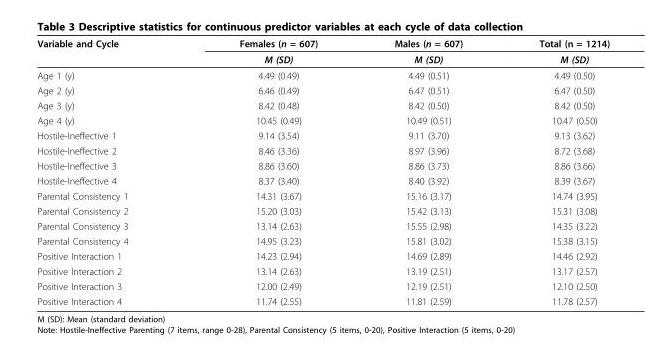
<table><thead><tr><td rowspan="2">Variable and Cycle</td><td rowspan="2">Females (n = 607) M (SD)</td><td rowspan="2">Males (n = 607) M (SD)</td><td rowspan="2">Total (n = 1214) M (SD)</td></tr><tr></tr></thead><tbody><tr><td>Age 1 (y)</td><td>4.49 (0.49)</td><td>4.49 (0.51)</td><td>4.49 (0.50)</td></tr><tr><td>Age 2 (y)</td><td>6.46 (0.49)</td><td>6.47 (0.51)</td><td>6.47 (0.50)</td></tr><tr><td>Age 3 (y)</td><td>8.42 (0.48)</td><td>8.42 (0.50)</td><td>8.42 (0.50)</td></tr><tr><td>Age 4 (y)</td><td>10.45 (0.49)</td><td>10.49 (0.51)</td><td>10.47 (0.50)</td></tr><tr><td>Hostile-Ineffective 1</td><td>9.14 (3.54)</td><td>9.11 (3.70)</td><td>9.13 (3.62)</td></tr><tr><td>Hostile-Ineffective 2</td><td>8.46 (3.36)</td><td>8.97 (3.96)</td><td>8.72 (3.68)</td></tr><tr><td>Hostile-Ineffective 3</td><td>8.86 (3.60)</td><td>8.86 (3.73)</td><td>8.86 (3.66)</td></tr><tr><td>Hostile-Ineffective 4</td><td>8.37 (3.40)</td><td>8.40 (3.92)</td><td>8.39 (3.67)</td></tr><tr><td>Parental Consistency 1</td><td>14.31 (3.67)</td><td>15.16 (3.17)</td><td>14.74 (3.95)</td></tr><tr><td>Parental Consistency 2</td><td>15.20 (3.03)</td><td>15.42 (3.13)</td><td>15.31 (3.08)</td></tr><tr><td>Parental Consistency 3</td><td>13.14 (2.63)</td><td>15.55 (2.98)</td><td>14.35 (3.22)</td></tr><tr><td>Parental Consistency 4</td><td>14.95 (3.23)</td><td>15.81 (3.02)</td><td>15.38 (3.15)</td></tr><tr><td>Positive Interaction 1</td><td>14.23 (2.94)</td><td>14.69 (2.89)</td><td>14.46 (2.92)</td></tr><tr><td>Positive Interaction 2</td><td>13.14 (2.63)</td><td>13.19 (2.51)</td><td>13.17 (2.57)</td></tr><tr><td>Positive Interaction 3</td><td>12.00 (2.49)</td><td>12.19 (2.51)</td><td>12.10 (2.50)</td></tr><tr><td>Positive Interaction 4</td><td>11.74 (2.55)</td><td>11.81 (2.59)</td><td>11.78 (2.57)</td></tr></tbody></table>